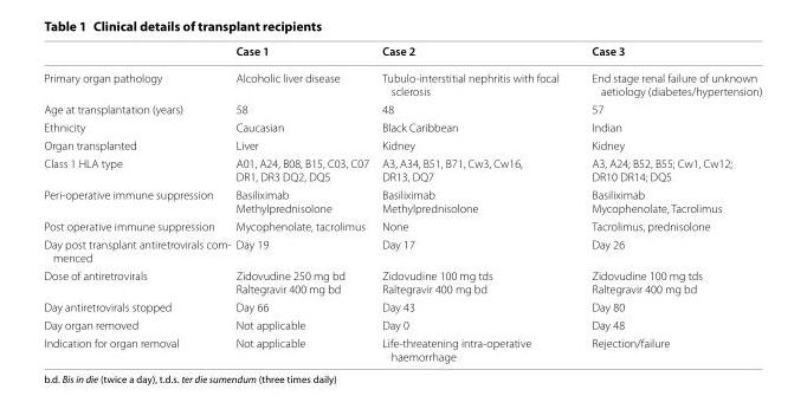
<table><thead><tr><td></td><td>Case 1</td><td>Case 2</td><td>Case 3</td></tr></thead><tbody><tr><td>Primary organ pathology</td><td>Alcoholic liver disease</td><td>Tubulo-interstitial nephritis with focal sclerosis</td><td>End stage renal failure of unknown aetiology (diabetes/hypertension)</td></tr><tr><td>Age at transplantation (years)</td><td>58</td><td>48</td><td>57</td></tr><tr><td>Ethnicity</td><td>Caucasian</td><td>Black Caribbean</td><td>Indian</td></tr><tr><td>Organ transplanted</td><td>Liver</td><td>Kidney</td><td>Kidney</td></tr><tr><td>Class 1 HLA type</td><td>A01, A24, B08, B15, C03, C07 DR1, DR3 DQ2, DQ5</td><td>A3, A34, B51, B71, Cw3, Cw16, DR13, DQ7</td><td>A3, A24; B52, B55; Cw1, Cw12; DR10 DR14; DQ5</td></tr><tr><td>Peri-operative immune suppression</td><td>Basiliximab Methylprednisolone</td><td>Basiliximab Methylprednisolone</td><td>Basiliximab Mycophenolate, Tacrolimus</td></tr><tr><td>Post operative immune suppression</td><td>Mycophenolate, tacrolimus</td><td>None</td><td>Tacrolimus, prednisolone</td></tr><tr><td>Day post transplant antiretrovirals com- menced</td><td>Day 19</td><td>Day 17</td><td>Day 26</td></tr><tr><td>Dose of antiretrovirals</td><td>Zidovudine 250 mg bd Raltegravir 400 mg bd</td><td>Zidovudine 100 mg tds Raltegravir 400 mg bd</td><td>Zidovudine 100 mg tds Raltegravir 400 mg bd</td></tr><tr><td>Day antiretrovirals stopped</td><td>Day 66</td><td>Day 43</td><td>Day 80</td></tr><tr><td>Day organ removed</td><td>Not applicable</td><td>Day 0</td><td>Day 48</td></tr><tr><td>Indication for organ removal</td><td>Not applicable</td><td>Life-threatening intra-operative haemorrhage</td><td>Rejection/failure</td></tr></tbody></table>